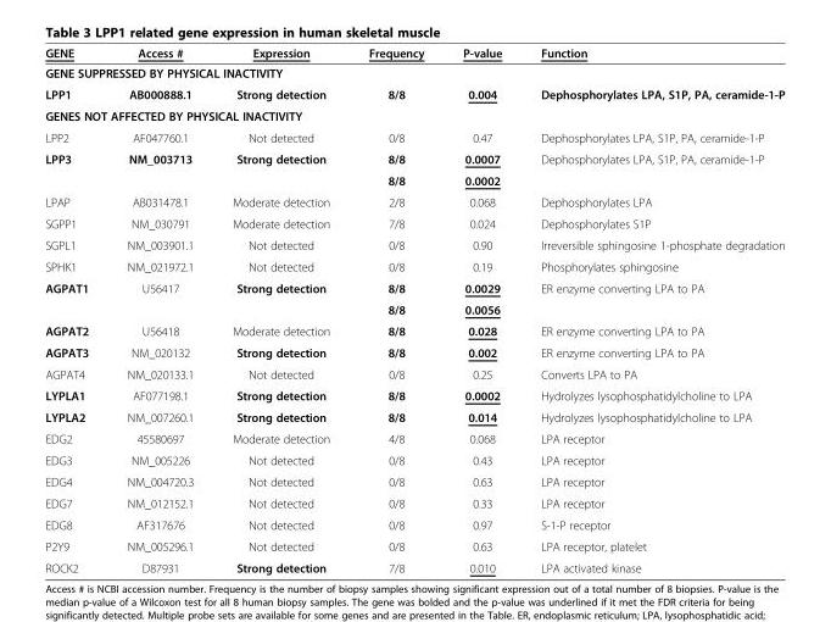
<table><thead><tr><td>GENE</td><td>Access #</td><td>Expression</td><td>Frequency</td><td>P-value</td><td>Function</td></tr></thead><tbody><tr><td colspan="6">GENE SUPPRESSED BY PHYSICAL INACTIVITY</td></tr><tr><td>LPP1</td><td>AB000888.1</td><td>Strong detection</td><td>8/8</td><td>0.004</td><td>Dephosphorylates LPA, S1P, PA, ceramide-1-P</td></tr><tr><td colspan="6">GENES NOT AFFECTED BY PHYSICAL INACTIVITY</td></tr><tr><td>LPP2</td><td>AF047760.1</td><td>Not detected</td><td>0/8</td><td>0.47</td><td>Dephosphorylates LPA, S1P, PA, ceramide-1-P</td></tr><tr><td rowspan="2">LPP3</td><td rowspan="2">NM_003713</td><td rowspan="2">Strong detection</td><td>8/8</td><td>0.0007</td><td rowspan="2">Dephosphorylates LPA, S1P, PA, ceramide-1-P</td></tr><tr><td>8/8</td><td>0.0002</td></tr><tr><td>LPAP</td><td>AB031478.1</td><td>Moderate detection</td><td>2/8</td><td>0.068</td><td>Dephosphorylates LPA</td></tr><tr><td>SGPP1</td><td>NM_030791</td><td>Moderate detection</td><td>7/8</td><td>0.024</td><td>Dephosphorylates S1P</td></tr><tr><td>SGPL1</td><td>NM_003901.1</td><td>Not detected</td><td>0/8</td><td>0.90</td><td>Irreversible sphingosine 1-phosphate degradation</td></tr><tr><td>SPHK1</td><td>NM_021972.1</td><td>Not detected</td><td>0/8</td><td>0.19</td><td>Phosphorylates sphingosine</td></tr><tr><td rowspan="2">AGPAT1</td><td rowspan="2">U56417</td><td rowspan="2">Strong detection</td><td>8/8</td><td>0.0029</td><td rowspan="2">ER enzyme converting LPA to PA</td></tr><tr><td>8/8</td><td>0.0056</td></tr><tr><td>AGPAT2</td><td>U56418</td><td>Moderate detection</td><td>8/8</td><td>0.028</td><td>ER enzyme converting LPA to PA</td></tr><tr><td>AGPAT3</td><td>NM_020132</td><td>Strong detection</td><td>8/8</td><td>0.002</td><td>ER enzyme converting LPA to PA</td></tr><tr><td>AGPAT4</td><td>NM_020133.1</td><td>Not detected</td><td>0/8</td><td>0.25</td><td>Converts LPA to PA</td></tr><tr><td>LYPLA1</td><td>AF077198.1</td><td>Strong detection</td><td>8/8</td><td>0.0002</td><td>Hydrolyzes lysophosphatidylcholine to LPA</td></tr><tr><td>LYPLA2</td><td>NM_007260.1</td><td>Strong detection</td><td>8/8</td><td>0.014</td><td>Hydrolyzes lysophosphatidylcholine to LPA</td></tr><tr><td>EDG2</td><td>45580697</td><td>Moderate detection</td><td>4/8</td><td>0.068</td><td>LPA receptor</td></tr><tr><td>EDG3</td><td>NM_005226</td><td>Not detected</td><td>0/8</td><td>0.43</td><td>LPA receptor</td></tr><tr><td>EDG4</td><td>NM_004720.3</td><td>Not detected</td><td>0/8</td><td>0.63</td><td>LPA receptor</td></tr><tr><td>EDG7</td><td>NM_012152.1</td><td>Not detected</td><td>0/8</td><td>0.33</td><td>LPA receptor</td></tr><tr><td>EDG8</td><td>AF317676</td><td>Not detected</td><td>0/8</td><td>0.97</td><td>S-1-P receptor</td></tr><tr><td>P2Y9</td><td>NM_005296.1</td><td>Not detected</td><td>0/8</td><td>0.63</td><td>LPA receptor, platelet</td></tr><tr><td>ROCK2</td><td>D87931</td><td>Strong detection</td><td>7/8</td><td>0.010</td><td>LPA activated kinase</td></tr></tbody></table>